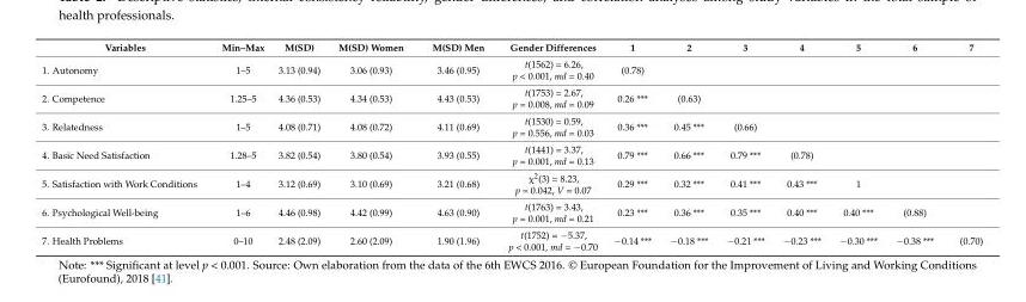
<table><thead><tr><td>Variables</td><td>Min–Max</td><td>M(SD)</td><td>M(SD) Women</td><td>M(SD) Men</td><td>Gender Differences</td><td>1</td><td>2</td><td>3</td><td>4</td><td>5</td><td>6</td><td>7</td></tr></thead><tbody><tr><td>1. Autonomy</td><td>1–5</td><td>3.13 (0.94)</td><td>3.06 (0.93)</td><td>3.46 (0.95)</td><td>t(1562) = 6.26, p &lt; 0.001, md = 0.40</td><td>(0.78)</td><td></td><td></td><td></td><td></td><td></td><td></td></tr><tr><td>2. Competence</td><td>1.25–5</td><td>4.36 (0.53)</td><td>4.34 (0.53)</td><td>4.43 (0.53)</td><td>t(1753) = 2.67, p = 0.008, md = 0.09</td><td>0.26 ***</td><td>(0.63)</td><td></td><td></td><td></td><td></td><td></td></tr><tr><td>3. Relatedness</td><td>1–5</td><td>4.08 (0.71)</td><td>4.08 (0.72)</td><td>4.11 (0.69)</td><td>t(1530) = 0.59, p = 0.556, md = 0.03</td><td>0.36 ***</td><td>0.45 ***</td><td>(0.66)</td><td></td><td></td><td></td><td></td></tr><tr><td>4. Basic Need Satisfaction</td><td>1.28–5</td><td>3.82 (0.54)</td><td>3.80 (0.54)</td><td>3.93 (0.55)</td><td>t(1441) = 3.37, p = 0.001, md = 0.13</td><td>0.79 ***</td><td>0.66 ***</td><td>0.79 ***</td><td>(0.78)</td><td></td><td></td><td></td></tr><tr><td>5. Satisfaction with Work Conditions</td><td>1–4</td><td>3.12 (0.69)</td><td>3.10 (0.69)</td><td>3.21 (0.68)</td><td>χ<sup>2</sup>(3) = 8.23, p = 0.042, V = 0.07</td><td>0.29 ***</td><td>0.32 ***</td><td>0.41 ***</td><td>0.43 ***</td><td>1</td><td></td><td></td></tr><tr><td>6. Psychological Well-being</td><td>1–6</td><td>4.46 (0.98)</td><td>4.42 (0.99)</td><td>4.63 (0.90)</td><td>t(1763) = 3.43, p = 0.001, md = 0.21</td><td>0.23 ***</td><td>0.36 ***</td><td>0.35 ***</td><td>0.40 ***</td><td>0.40 ***</td><td>(0.88)</td><td></td></tr><tr><td>7. Health Problems</td><td>0–10</td><td>2.48 (2.09)</td><td>2.60 (2.09)</td><td>1.90 (1.96)</td><td>t(1752) = −5.37, p &lt; 0.001, md = −0.70</td><td>−0.14 ***</td><td>−0.18 ***</td><td>−0.21 ***</td><td>−0.23 ***</td><td>−0.30 ***</td><td>−0.38 ***</td><td>(0.70)</td></tr></tbody></table>